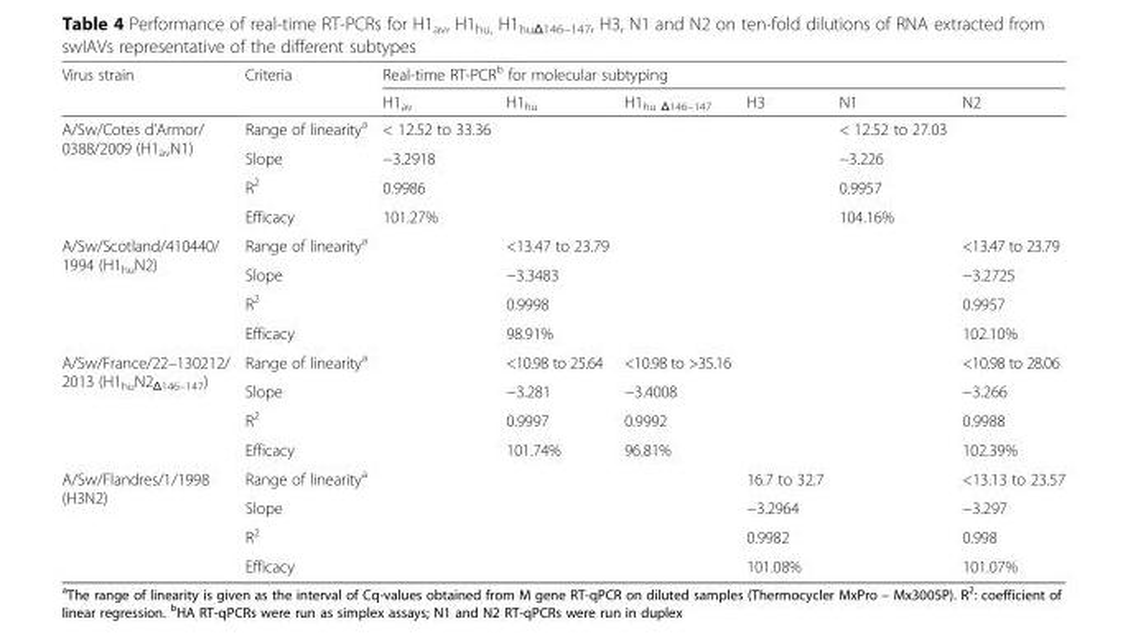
<table><thead><tr><td rowspan="2">Virus strain</td><td rowspan="2">Criteria</td><td colspan="6">Real-time RT-PCR<sup>b</sup> for molecular subtyping</td></tr><tr><td>H1<sub>av</sub></td><td>H1<sub>hu</sub></td><td>H1<sub>hu Δ146–147</sub></td><td>H3</td><td>N1</td><td>N2</td></tr></thead><tbody><tr><td rowspan="4">A/Sw/Cotes d’Armor/ 0388/2009 (H1<sub>av</sub>N1)</td><td>Range of linearity<sup>a</sup></td><td>&lt; 12.52 to 33.36</td><td></td><td></td><td></td><td>&lt; 12.52 to 27.03</td><td></td></tr><tr><td>Slope</td><td>−3.2918</td><td></td><td></td><td></td><td>−3.226</td><td></td></tr><tr><td>R<sup>2</sup></td><td>0.9986</td><td></td><td></td><td></td><td>0.9957</td><td></td></tr><tr><td>Efficacy</td><td>101.27%</td><td></td><td></td><td></td><td>104.16%</td><td></td></tr><tr><td rowspan="4">A/Sw/Scotland/410440/ 1994 (H1<sub>hu</sub>N2)</td><td>Range of linearity<sup>a</sup></td><td></td><td>&lt;13.47 to 23.79</td><td></td><td></td><td></td><td>&lt;13.47 to 23.79</td></tr><tr><td>Slope</td><td></td><td>−3.3483</td><td></td><td></td><td></td><td>−3.2725</td></tr><tr><td>R<sup>2</sup></td><td></td><td>0.9998</td><td></td><td></td><td></td><td>0.9957</td></tr><tr><td>Efficacy</td><td></td><td>98.91%</td><td></td><td></td><td></td><td>102.10%</td></tr><tr><td rowspan="4">A/Sw/France/22–130212/ 2013 (H1<sub>hu</sub>N2<sub>Δ146–147</sub>)</td><td>Range of linearity<sup>a</sup></td><td></td><td>&lt;10.98 to 25.64</td><td>&lt;10.98 to &gt;35.16</td><td></td><td></td><td>&lt;10.98 to 28.06</td></tr><tr><td>Slope</td><td></td><td>−3.281</td><td>−3.4008</td><td></td><td></td><td>−3.266</td></tr><tr><td>R<sup>2</sup></td><td></td><td>0.9997</td><td>0.9992</td><td></td><td></td><td>0.9988</td></tr><tr><td>Efficacy</td><td></td><td>101.74%</td><td>96.81%</td><td></td><td></td><td>102.39%</td></tr><tr><td rowspan="4">A/Sw/Flandres/1/1998 (H3N2)</td><td>Range of linearity<sup>a</sup></td><td></td><td></td><td></td><td>16.7 to 32.7</td><td></td><td>&lt;13.13 to 23.57</td></tr><tr><td>Slope</td><td></td><td></td><td></td><td>−3.2964</td><td></td><td>−3.297</td></tr><tr><td>R<sup>2</sup></td><td></td><td></td><td></td><td>0.9982</td><td></td><td>0.998</td></tr><tr><td>Efficacy</td><td></td><td></td><td></td><td>101.08%</td><td></td><td>101.07%</td></tr></tbody></table>